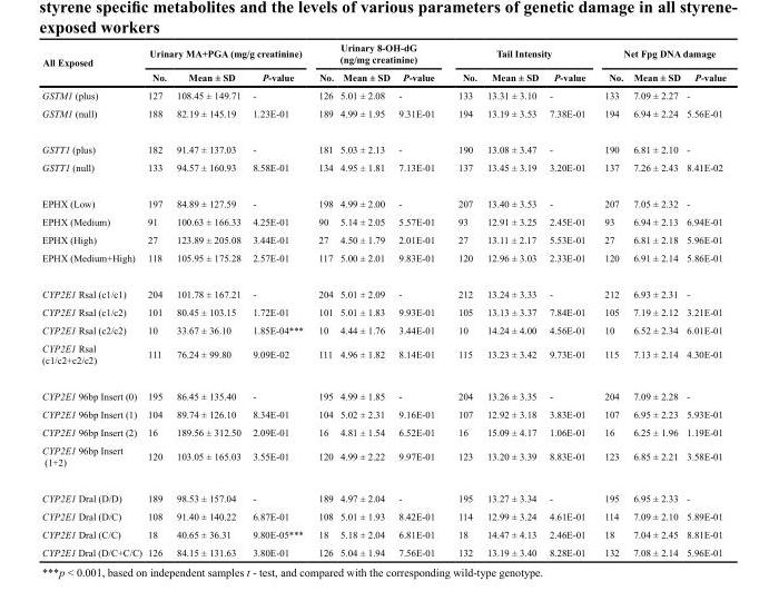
<table><thead><tr><td rowspan="2">All Exposed</td><td colspan="3">Urinary MA+PGA (mg/g creatinine)</td><td colspan="3">Urinary 8-OH-dG (ng/mg creatinine)</td><td colspan="3">Tail Intensity</td><td colspan="3">Net Fpg DNA damage</td></tr><tr><td>No.</td><td>Mean ± SD</td><td>P-value</td><td>No.</td><td>Mean ± SD</td><td>P-value</td><td>No.</td><td>Mean ± SD</td><td>P-value</td><td>No.</td><td>Mean ± SD</td><td>P-value</td></tr></thead><tbody><tr><td>GSTM1 (plus)</td><td>127</td><td>108.45 ± 149.71</td><td>-</td><td>126</td><td>5.01 ± 2.08</td><td>-</td><td>133</td><td>13.31 ± 3.10</td><td>-</td><td>133</td><td>7.09 ± 2.27</td><td>-</td></tr><tr><td>GSTM1 (null)</td><td>188</td><td>82.19 ± 145.19</td><td>1.23E-01</td><td>189</td><td>4.99 ± 1.95</td><td>9.31E-01</td><td>194</td><td>13.19 ± 3.53</td><td>7.38E-01</td><td>194</td><td>6.94 ± 2.24</td><td>5.56E-01</td></tr><tr><td>GSTT1 (plus)</td><td>182</td><td>91.47 ± 137.03</td><td>-</td><td>181</td><td>5.03 ± 2.13</td><td>-</td><td>190</td><td>13.08 ± 3.47</td><td>-</td><td>190</td><td>6.81 ± 2.10</td><td>-</td></tr><tr><td>GSTT1 (null)</td><td>133</td><td>94.57 ± 160.93</td><td>8.58E-01</td><td>134</td><td>4.95 ± 1.81</td><td>7.13E-01</td><td>137</td><td>13.45 ± 3.19</td><td>3.20E-01</td><td>137</td><td>7.26 ± 2.43</td><td>8.41E-02</td></tr><tr><td>EPHX (Low)</td><td>197</td><td>84.89 ± 127.59</td><td>-</td><td>198</td><td>4.99 ± 2.00</td><td>-</td><td>207</td><td>13.40 ± 3.53</td><td>-</td><td>207</td><td>7.05 ± 2.32</td><td>-</td></tr><tr><td>EPHX (Medium)</td><td>91</td><td>100.63 ± 166.33</td><td>4.25E-01</td><td>90</td><td>5.14 ± 2.05</td><td>5.57E-01</td><td>93</td><td>12.91 ± 3.25</td><td>2.45E-01</td><td>93</td><td>6.94 ± 2.13</td><td>6.94E-01</td></tr><tr><td>EPHX (High)</td><td>27</td><td>123.89 ± 205.08</td><td>3.44E-01</td><td>27</td><td>4.50 ± 1.79</td><td>2.01E-01</td><td>27</td><td>13.11 ± 2.17</td><td>5.53E-01</td><td>27</td><td>6.81 ± 2.18</td><td>5.96E-01</td></tr><tr><td>EPHX (Medium+High)</td><td>118</td><td>105.95 ± 175.28</td><td>2.57E-01</td><td>117</td><td>5.00 ± 2.01</td><td>9.83E-01</td><td>120</td><td>12.96 ± 3.03</td><td>2.33E-01</td><td>120</td><td>6.91 ± 2.14</td><td>5.86E-01</td></tr><tr><td>CYP2E1 Rsal (c1/c1)</td><td>204</td><td>101.78 ± 167.21</td><td>-</td><td>204</td><td>5.01 ± 2.09</td><td>-</td><td>212</td><td>13.24 ± 3.33</td><td>-</td><td>212</td><td>6.93 ± 2.31</td><td>-</td></tr><tr><td>CYP2E1 Rsal (c1/c2)</td><td>101</td><td>80.45 ± 103.15</td><td>1.72E-01</td><td>101</td><td>5.01 ± 1.83</td><td>9.93E-01</td><td>105</td><td>13.13 ± 3.37</td><td>7.84E-01</td><td>105</td><td>7.19 ± 2.12</td><td>3.21E-01</td></tr><tr><td>CYP2E1 Rsal (c2/c2)</td><td>10</td><td>33.67 ± 36.10</td><td>1.85E-04***</td><td>10</td><td>4.44 ± 1.76</td><td>3.44E-01</td><td>10</td><td>14.24 ± 4.00</td><td>4.56E-01</td><td>10</td><td>6.52 ± 2.34</td><td>6.01E-01</td></tr><tr><td>CYP2E1 Rsal (c1/c2+c2/c2)</td><td>111</td><td>76.24 ± 99.80</td><td>9.09E-02</td><td>111</td><td>4.96 ± 1.82</td><td>8.14E-01</td><td>115</td><td>13.23 ± 3.42</td><td>9.73E-01</td><td>115</td><td>7.13 ± 2.14</td><td>4.30E-01</td></tr><tr><td>CYP2E1 96bp Insert (0)</td><td>195</td><td>86.45 ± 135.40</td><td>-</td><td>195</td><td>4.99 ± 1.85</td><td>-</td><td>204</td><td>13.26 ± 3.35</td><td>-</td><td>204</td><td>7.09 ± 2.28</td><td>-</td></tr><tr><td>CYP2E1 96bp Insert (1)</td><td>104</td><td>89.74 ± 126.10</td><td>8.34E-01</td><td>104</td><td>5.02 ± 2.31</td><td>9.16E-01</td><td>107</td><td>12.92 ± 3.18</td><td>3.83E-01</td><td>107</td><td>6.95 ± 2.23</td><td>5.93E-01</td></tr><tr><td>CYP2E1 96bp Insert (2)</td><td>16</td><td>189.56 ± 312.50</td><td>2.09E-01</td><td>16</td><td>4.81 ± 1.54</td><td>6.52E-01</td><td>16</td><td>15.09 ± 4.17</td><td>1.06E-01</td><td>16</td><td>6.25 ± 1.96</td><td>1.19E-01</td></tr><tr><td>CYP2E1 96bp Insert (1+2)</td><td>120</td><td>103.05 ± 165.03</td><td>3.55E-01</td><td>120</td><td>4.99 ± 2.22</td><td>9.97E-01</td><td>123</td><td>13.20 ± 3.39</td><td>8.83E-01</td><td>123</td><td>6.85 ± 2.21</td><td>3.58E-01</td></tr><tr><td>CYP2E1 Dral (D/D)</td><td>189</td><td>98.53 ± 157.04</td><td>-</td><td>189</td><td>4.97 ± 2.04</td><td>-</td><td>195</td><td>13.27 ± 3.34</td><td>-</td><td>195</td><td>6.95 ± 2.33</td><td>-</td></tr><tr><td>CYP2E1 Dral (D/C)</td><td>108</td><td>91.40 ± 140.22</td><td>6.87E-01</td><td>108</td><td>5.01 ± 1.93</td><td>8.42E-01</td><td>114</td><td>12.99 ± 3.24</td><td>4.61E-01</td><td>114</td><td>7.09 ± 2.10</td><td>5.89E-01</td></tr><tr><td>CYP2E1 Dral (C/C)</td><td>18</td><td>40.65 ± 36.31</td><td>9.80E-05***</td><td>18</td><td>5.18 ± 2.04</td><td>6.81E-01</td><td>18</td><td>14.47 ± 4.13</td><td>2.46E-01</td><td>18</td><td>7.04 ± 2.45</td><td>8.81E-01</td></tr><tr><td>CYP2E1 Dral (D/C+C/C)</td><td>126</td><td>84.15 ± 131.63</td><td>3.80E-01</td><td>126</td><td>5.04 ± 1.94</td><td>7.56E-01</td><td>132</td><td>13.19 ± 3.40</td><td>8.28E-01</td><td>132</td><td>7.08 ± 2.14</td><td>5.96E-01</td></tr></tbody></table>